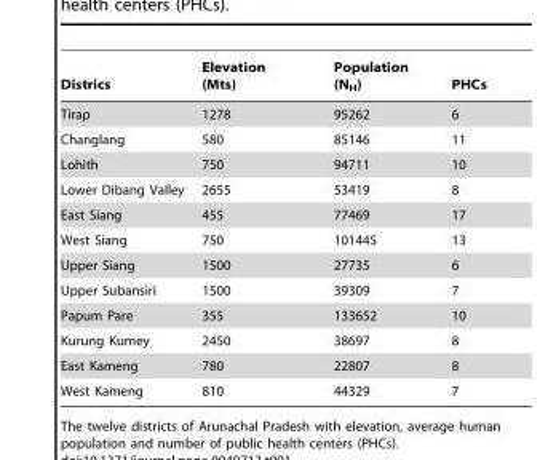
<table><thead><tr><td>Districs</td><td>Elevation (Mts)</td><td>Population (N<sub>H</sub>)</td><td>PHCs</td></tr></thead><tbody><tr><td>Tirap</td><td>1278</td><td>95262</td><td>6</td></tr><tr><td>Changlang</td><td>580</td><td>85146</td><td>11</td></tr><tr><td>Lohith</td><td>750</td><td>94711</td><td>10</td></tr><tr><td>Lower Dibang Valley</td><td>2655</td><td>53419</td><td>8</td></tr><tr><td>East Siang</td><td>455</td><td>77469</td><td>17</td></tr><tr><td>West Siang</td><td>750</td><td>101445</td><td>13</td></tr><tr><td>Upper Siang</td><td>1500</td><td>27735</td><td>6</td></tr><tr><td>Upper Subansiri</td><td>1500</td><td>39309</td><td>7</td></tr><tr><td>Papum Pare</td><td>355</td><td>133652</td><td>10</td></tr><tr><td>Kurung Kumey</td><td>2450</td><td>38697</td><td>8</td></tr><tr><td>East Kameng</td><td>780</td><td>22807</td><td>8</td></tr><tr><td>West Kameng</td><td>810</td><td>44329</td><td>7</td></tr></tbody></table>